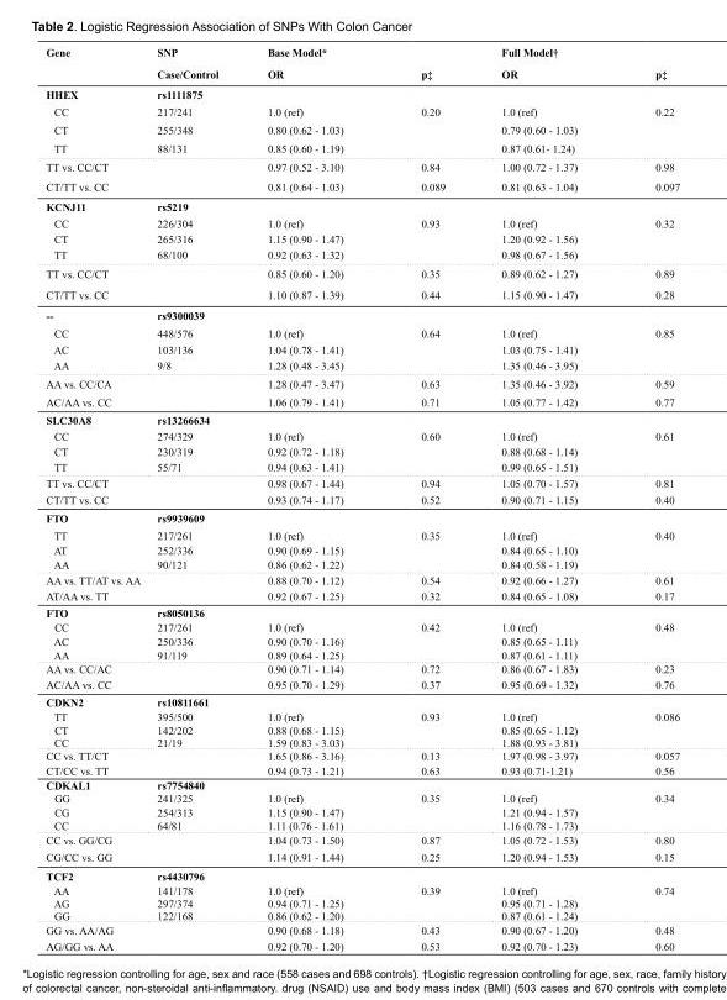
<table><thead><tr><td rowspan="2">Gene</td><td rowspan="2">SNP Case/Control</td><td colspan="2">Base Model*</td><td colspan="2">Full Model†</td></tr><tr><td>OR</td><td>p‡</td><td>OR</td><td>p‡</td></tr></thead><tbody><tr><td>HHEX</td><td>rs1111875</td><td></td><td></td><td></td><td></td></tr><tr><td>CC</td><td>217/241</td><td>1.0 (ref)</td><td>0.20</td><td>1.0 (ref)</td><td>0.22</td></tr><tr><td>CT</td><td>255/348</td><td>0.80 (0.62 - 1.03)</td><td></td><td>0.79 (0.60 - 1.03)</td><td></td></tr><tr><td>TT</td><td>88/131</td><td>0.85 (0.60 - 1.19)</td><td></td><td>0.87 (0.61- 1.24)</td><td></td></tr><tr><td>TT vs. CC/CT</td><td></td><td>0.97 (0.52 - 3.10)</td><td>0.84</td><td>1.00 (0.72 - 1.37)</td><td>0.98</td></tr><tr><td>CT/TT vs. CC</td><td></td><td>0.81 (0.64 - 1.03)</td><td>0.089</td><td>0.81 (0.63 - 1.04)</td><td>0.097</td></tr><tr><td>KCNJ11</td><td>rs5219</td><td></td><td></td><td></td><td></td></tr><tr><td>CC</td><td>226/304</td><td>1.0 (ref)</td><td>0.93</td><td>1.0 (ref)</td><td>0.32</td></tr><tr><td>CT</td><td>265/316</td><td>1.15 (0.90 - 1.47)</td><td></td><td>1.20 (0.92 - 1.56)</td><td></td></tr><tr><td>TT</td><td>68/100</td><td>0.92 (0.63 - 1.32)</td><td></td><td>0.98 (0.67 - 1.56)</td><td></td></tr><tr><td>TT vs. CC/CT</td><td></td><td>0.85 (0.60 - 1.20)</td><td>0.35</td><td>0.89 (0.62 - 1.27)</td><td>0.89</td></tr><tr><td>CT/TT vs. CC</td><td></td><td>1.10 (0.87 - 1.39)</td><td>0.44</td><td>1.15 (0.90 - 1.47)</td><td>0.28</td></tr><tr><td>--</td><td>rs9300039</td><td></td><td></td><td></td><td></td></tr><tr><td>CC</td><td>448/576</td><td>1.0 (ref)</td><td>0.64</td><td>1.0 (ref)</td><td>0.85</td></tr><tr><td>AC</td><td>103/136</td><td>1.04 (0.78 - 1.41)</td><td></td><td>1.03 (0.75 - 1.41)</td><td></td></tr><tr><td>AA</td><td>9/8</td><td>1.28 (0.48 - 3.45)</td><td></td><td>1.35 (0.46 - 3.95)</td><td></td></tr><tr><td>AA vs. CC/CA</td><td></td><td>1.28 (0.47 - 3.47)</td><td>0.63</td><td>1.35 (0.46 - 3.92)</td><td>0.59</td></tr><tr><td>AC/AA vs. CC</td><td></td><td>1.06 (0.79 - 1.41)</td><td>0.71</td><td>1.05 (0.77 - 1.42)</td><td>0.77</td></tr><tr><td>SLC30A8</td><td>rs13266634</td><td></td><td></td><td></td><td></td></tr><tr><td>CC</td><td>274/329</td><td>1.0 (ref)</td><td>0.60</td><td>1.0 (ref)</td><td>0.61</td></tr><tr><td>CT</td><td>230/319</td><td>0.92 (0.72 - 1.18)</td><td></td><td>0.88 (0.68 - 1.14)</td><td></td></tr><tr><td>TT</td><td>55/71</td><td>0.94 (0.63 - 1.41)</td><td></td><td>0.99 (0.65 - 1.51)</td><td></td></tr><tr><td>TT vs. CC/CT</td><td></td><td>0.98 (0.67 - 1.44)</td><td>0.94</td><td>1.05 (0.70 - 1.57)</td><td>0.81</td></tr><tr><td>CT/TT vs. CC</td><td></td><td>0.93 (0.74 - 1.17)</td><td>0.52</td><td>0.90 (0.71 - 1.15)</td><td>0.40</td></tr><tr><td>FTO</td><td>rs9939609</td><td></td><td></td><td></td><td></td></tr><tr><td>TT</td><td>217/261</td><td>1.0 (ref)</td><td>0.35</td><td>1.0 (ref)</td><td>0.40</td></tr><tr><td>AT</td><td>252/336</td><td>0.90 (0.69 - 1.15)</td><td></td><td>0.84 (0.65 - 1.10)</td><td></td></tr><tr><td>AA</td><td>90/121</td><td>0.86 (0.62 - 1.22)</td><td></td><td>0.84 (0.58 - 1.19)</td><td></td></tr><tr><td>AA vs. TT/AT vs. AA</td><td></td><td>0.88 (0.70 - 1.12)</td><td>0.54</td><td>0.92 (0.66 - 1.27)</td><td>0.61</td></tr><tr><td>AT/AA vs. TT</td><td></td><td>0.92 (0.67 - 1.25)</td><td>0.32</td><td>0.84 (0.65 - 1.08)</td><td>0.17</td></tr><tr><td>FTO</td><td>rs8050136</td><td></td><td></td><td></td><td></td></tr><tr><td>CC</td><td>217/261</td><td>1.0 (ref)</td><td>0.42</td><td>1.0 (ref)</td><td>0.48</td></tr><tr><td>AC</td><td>250/336</td><td>0.90 (0.70 - 1.16)</td><td></td><td>0.85 (0.65 - 1.11)</td><td></td></tr><tr><td>AA</td><td>91/119</td><td>0.89 (0.64 - 1.25)</td><td></td><td>0.87 (0.61 - 1.11)</td><td></td></tr><tr><td>AA vs. CC/AC</td><td></td><td>0.90 (0.71 - 1.14)</td><td>0.72</td><td>0.86 (0.67 - 1.83)</td><td>0.23</td></tr><tr><td>AC/AA vs. CC</td><td></td><td>0.95 (0.70 - 1.29)</td><td>0.37</td><td>0.95 (0.69 - 1.32)</td><td>0.76</td></tr><tr><td>CDKN2</td><td>rs10811661</td><td></td><td></td><td></td><td></td></tr><tr><td>TT</td><td>395/500</td><td>1.0 (ref)</td><td>0.93</td><td>1.0 (ref)</td><td>0.086</td></tr><tr><td>CT</td><td>142/202</td><td>0.88 (0.68 - 1.15)</td><td></td><td>0.85 (0.65 - 1.12)</td><td></td></tr><tr><td>CC</td><td>21/19</td><td>1.59 (0.83 - 3.03)</td><td></td><td>1.88 (0.93 - 3.81)</td><td></td></tr><tr><td>CC vs. TT/CT</td><td></td><td>1.65 (0.86 - 3.16)</td><td>0.13</td><td>1.97 (0.98 - 3.97)</td><td>0.057</td></tr><tr><td>CT/CC vs. TT</td><td></td><td>0.94 (0.73 - 1.21)</td><td>0.63</td><td>0.93 (0.71-1.21)</td><td>0.56</td></tr><tr><td>CDKAL1</td><td>rs7754840</td><td></td><td></td><td></td><td></td></tr><tr><td>GG</td><td>241/325</td><td>1.0 (ref)</td><td>0.35</td><td>1.0 (ref)</td><td>0.34</td></tr><tr><td>CG</td><td>254/313</td><td>1.15 (0.90 - 1.47)</td><td></td><td>1.21 (0.94 - 1.57)</td><td></td></tr><tr><td>CC</td><td>64/81</td><td>1.11 (0.76 - 1.61)</td><td></td><td>1.16 (0.78 - 1.73)</td><td></td></tr><tr><td>CC vs. GG/CG</td><td></td><td>1.04 (0.73 - 1.50)</td><td>0.87</td><td>1.05 (0.72 - 1.53)</td><td>0.80</td></tr><tr><td>CG/CC vs. GG</td><td></td><td>1.14 (0.91 - 1.44)</td><td>0.25</td><td>1.20 (0.94 - 1.53)</td><td>0.15</td></tr><tr><td>TCF2</td><td>rs4430796</td><td></td><td></td><td></td><td></td></tr><tr><td>AA</td><td>141/178</td><td>1.0 (ref)</td><td>0.39</td><td>1.0 (ref)</td><td>0.74</td></tr><tr><td>AG</td><td>297/374</td><td>0.94 (0.71 - 1.25)</td><td></td><td>0.95 (0.71 - 1.28)</td><td></td></tr><tr><td>GG</td><td>122/168</td><td>0.86 (0.62 - 1.20)</td><td></td><td>0.87 (0.61 - 1.24)</td><td></td></tr><tr><td>GG vs. AA/AG</td><td></td><td>0.90 (0.68 - 1.18)</td><td>0.43</td><td>0.90 (0.67 - 1.20)</td><td>0.48</td></tr><tr><td>AG/GG vs. AA</td><td></td><td>0.92 (0.70 - 1.20)</td><td>0.53</td><td>0.92 (0.70 - 1.23)</td><td>0.60</td></tr></tbody></table>